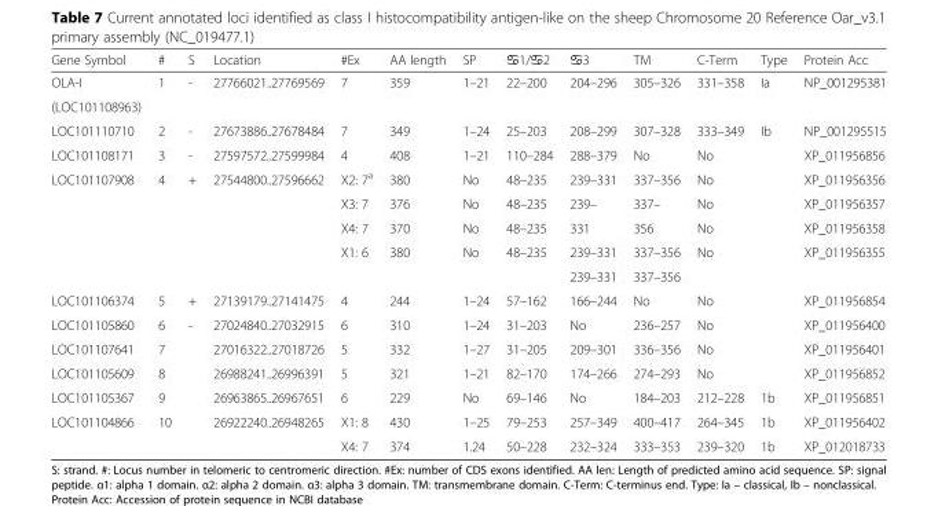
<table><thead><tr><td>Gene Symbol</td><td>#</td><td>S</td><td>Location</td><td>#Ex</td><td>AA length</td><td>SP</td><td>♋1/♋2</td><td>♋3</td><td>TM</td><td>C-Term</td><td>Type</td><td>Protein Acc</td></tr></thead><tbody><tr><td>OLA-I</td><td rowspan="2">1</td><td rowspan="2">-</td><td rowspan="2">27766021..27769569</td><td rowspan="2">7</td><td rowspan="2">359</td><td rowspan="2">1–21</td><td rowspan="2">22–200</td><td rowspan="2">204–296</td><td rowspan="2">305–326</td><td rowspan="2">331–358</td><td rowspan="2">Ia</td><td rowspan="2">NP_001295381</td></tr><tr><td>(LOC101108963)</td></tr><tr><td>LOC101110710</td><td>2</td><td>-</td><td>27673886..27678484</td><td>7</td><td>349</td><td>1–24</td><td>25–203</td><td>208–299</td><td>307–328</td><td>333–349</td><td>Ib</td><td>NP_001295515</td></tr><tr><td>LOC101108171</td><td>3</td><td>-</td><td>27597572..27599984</td><td>4</td><td>408</td><td>1–21</td><td>110–284</td><td>288–379</td><td>No</td><td>No</td><td></td><td>XP_011956856</td></tr><tr><td rowspan="5">LOC101107908</td><td rowspan="5">4</td><td rowspan="5">+</td><td rowspan="5">27544800..27596662</td><td>X2: 7<sup>a</sup></td><td>380</td><td>No</td><td>48–235</td><td>239–331</td><td>337–356</td><td>No</td><td></td><td>XP_011956356</td></tr><tr><td>X3: 7</td><td>376</td><td>No</td><td>48–235</td><td>239–</td><td>337–</td><td>No</td><td></td><td>XP_011956357</td></tr><tr><td>X4: 7</td><td>370</td><td>No</td><td>48–235</td><td>331</td><td>356</td><td>No</td><td></td><td>XP_011956358</td></tr><tr><td rowspan="2">X1: 6</td><td rowspan="2">380</td><td rowspan="2">No</td><td rowspan="2">48–235</td><td>239–331</td><td>337–356</td><td>No</td><td></td><td>XP_011956355</td></tr><tr><td>239–331</td><td>337–356</td><td></td><td></td><td></td></tr><tr><td>LOC101106374</td><td>5</td><td>+</td><td>27139179..27141475</td><td>4</td><td>244</td><td>1–24</td><td>57–162</td><td>166–244</td><td>No</td><td>No</td><td></td><td>XP_011956854</td></tr><tr><td>LOC101105860</td><td>6</td><td>-</td><td>27024840..27032915</td><td>6</td><td>310</td><td>1–24</td><td>31–203</td><td>No</td><td>236–257</td><td>No</td><td></td><td>XP_011956400</td></tr><tr><td>LOC101107641</td><td>7</td><td></td><td>27016322..27018726</td><td>5</td><td>332</td><td>1–27</td><td>31–205</td><td>209–301</td><td>336–356</td><td>No</td><td></td><td>XP_011956401</td></tr><tr><td>LOC101105609</td><td>8</td><td></td><td>26988241..26996391</td><td>5</td><td>321</td><td>1–21</td><td>82–170</td><td>174–266</td><td>274–293</td><td>No</td><td></td><td>XP_011956852</td></tr><tr><td>LOC101105367</td><td>9</td><td></td><td>26963865..26967651</td><td>6</td><td>229</td><td>No</td><td>69–146</td><td>No</td><td>184–203</td><td>212–228</td><td>1b</td><td>XP_011956851</td></tr><tr><td rowspan="2">LOC101104866</td><td rowspan="2">10</td><td rowspan="2"></td><td rowspan="2">26922240..26948265</td><td>X1: 8</td><td>430</td><td>1–25</td><td>79–253</td><td>257–349</td><td>400–417</td><td>264–345</td><td>1b</td><td>XP_011956402</td></tr><tr><td>X4: 7</td><td>374</td><td>1.24</td><td>50–228</td><td>232–324</td><td>333–353</td><td>239–320</td><td>1b</td><td>XP_012018733</td></tr></tbody></table>